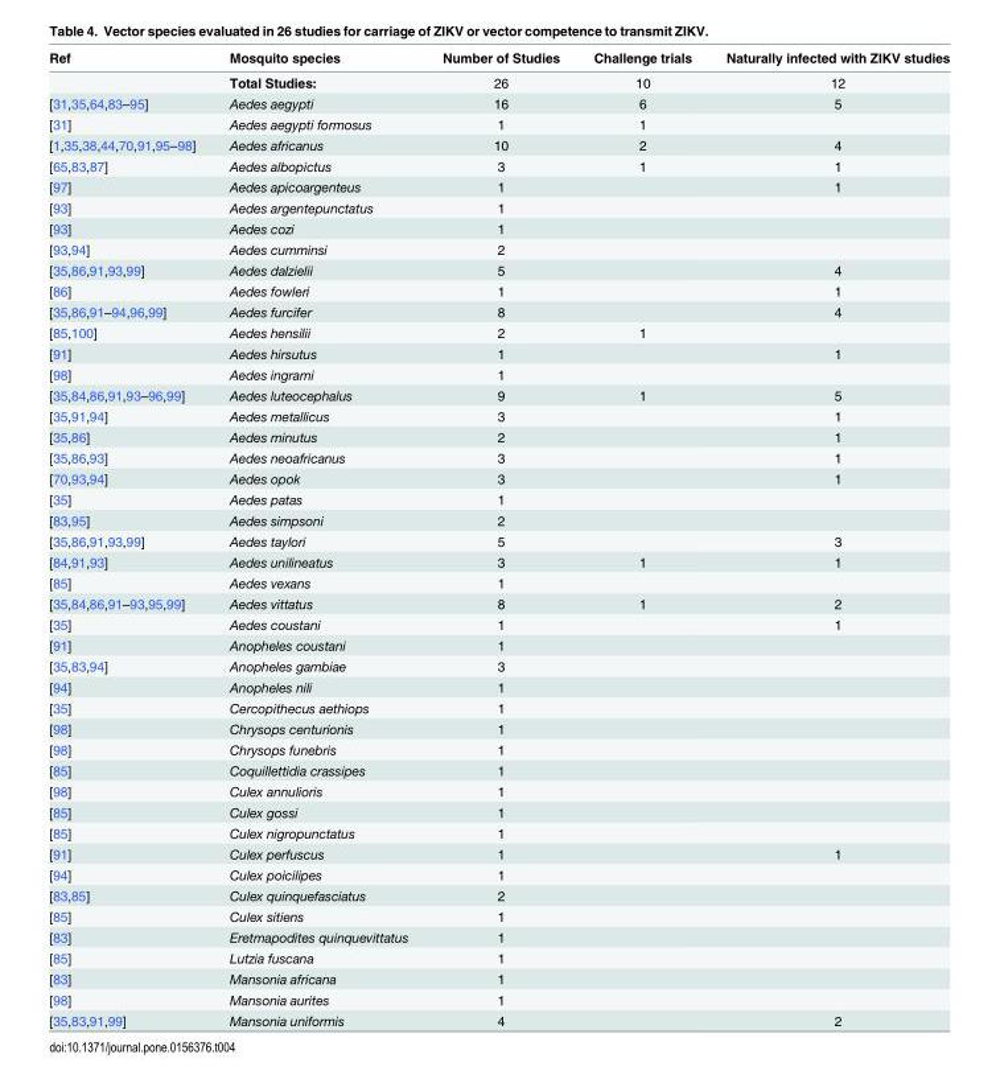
<table><thead><tr><td>Ref</td><td>Mosquito species</td><td>Number of Studies</td><td>Challenge trials</td><td>Naturally infected with ZIKV studies</td></tr></thead><tbody><tr><td></td><td>Total Studies:</td><td>26</td><td>10</td><td>12</td></tr><tr><td>[31,35,64,83–95]</td><td>Aedes aegypti</td><td>16</td><td>6</td><td>5</td></tr><tr><td>[31]</td><td>Aedes aegypti formosus</td><td>1</td><td>1</td><td></td></tr><tr><td>[1,35,38,44,70,91,95–98]</td><td>Aedes africanus</td><td>10</td><td>2</td><td>4</td></tr><tr><td>[65,83,87]</td><td>Aedes albopictus</td><td>3</td><td>1</td><td>1</td></tr><tr><td>[97]</td><td>Aedes apicoargenteus</td><td>1</td><td></td><td>1</td></tr><tr><td>[93]</td><td>Aedes argentepunctatus</td><td>1</td><td></td><td></td></tr><tr><td>[93]</td><td>Aedes cozi</td><td>1</td><td></td><td></td></tr><tr><td>[93,94]</td><td>Aedes cumminsi</td><td>2</td><td></td><td></td></tr><tr><td>[35,86,91,93,99]</td><td>Aedes dalzielii</td><td>5</td><td></td><td>4</td></tr><tr><td>[86]</td><td>Aedes fowleri</td><td>1</td><td></td><td>1</td></tr><tr><td>[35,86,91–94,96,99]</td><td>Aedes furcifer</td><td>8</td><td></td><td>4</td></tr><tr><td>[85,100]</td><td>Aedes hensilii</td><td>2</td><td>1</td><td></td></tr><tr><td>[91]</td><td>Aedes hirsutus</td><td>1</td><td></td><td>1</td></tr><tr><td>[98]</td><td>Aedes ingrami</td><td>1</td><td></td><td></td></tr><tr><td>[35,84,86,91,93–96,99]</td><td>Aedes luteocephalus</td><td>9</td><td>1</td><td>5</td></tr><tr><td>[35,91,94]</td><td>Aedes metallicus</td><td>3</td><td></td><td>1</td></tr><tr><td>[35,86]</td><td>Aedes minutus</td><td>2</td><td></td><td>1</td></tr><tr><td>[35,86,93]</td><td>Aedes neoafricanus</td><td>3</td><td></td><td>1</td></tr><tr><td>[70,93,94]</td><td>Aedes opok</td><td>3</td><td></td><td>1</td></tr><tr><td>[35]</td><td>Aedes patas</td><td>1</td><td></td><td></td></tr><tr><td>[83,95]</td><td>Aedes simpsoni</td><td>2</td><td></td><td></td></tr><tr><td>[35,86,91,93,99]</td><td>Aedes taylori</td><td>5</td><td></td><td>3</td></tr><tr><td>[84,91,93]</td><td>Aedes unilineatus</td><td>3</td><td>1</td><td>1</td></tr><tr><td>[85]</td><td>Aedes vexans</td><td>1</td><td></td><td></td></tr><tr><td>[35,84,86,91–93,95,99]</td><td>Aedes vittatus</td><td>8</td><td>1</td><td>2</td></tr><tr><td>[35]</td><td>Aedes coustani</td><td>1</td><td></td><td>1</td></tr><tr><td>[91]</td><td>Anopheles coustani</td><td>1</td><td></td><td></td></tr><tr><td>[35,83,94]</td><td>Anopheles gambiae</td><td>3</td><td></td><td></td></tr><tr><td>[94]</td><td>Anopheles nili</td><td>1</td><td></td><td></td></tr><tr><td>[35]</td><td>Cercopithecus aethiops</td><td>1</td><td></td><td></td></tr><tr><td>[98]</td><td>Chrysops centurionis</td><td>1</td><td></td><td></td></tr><tr><td>[98]</td><td>Chrysops funebris</td><td>1</td><td></td><td></td></tr><tr><td>[85]</td><td>Coquillettidia crassipes</td><td>1</td><td></td><td></td></tr><tr><td>[98]</td><td>Culex annulioris</td><td>1</td><td></td><td></td></tr><tr><td>[85]</td><td>Culex gossi</td><td>1</td><td></td><td></td></tr><tr><td>[85]</td><td>Culex nigropunctatus</td><td>1</td><td></td><td></td></tr><tr><td>[91]</td><td>Culex perfuscus</td><td>1</td><td></td><td>1</td></tr><tr><td>[94]</td><td>Culex poicilipes</td><td>1</td><td></td><td></td></tr><tr><td>[83,85]</td><td>Culex quinquefasciatus</td><td>2</td><td></td><td></td></tr><tr><td>[85]</td><td>Culex sitiens</td><td>1</td><td></td><td></td></tr><tr><td>[83]</td><td>Eretmapodites quinquevittatus</td><td>1</td><td></td><td></td></tr><tr><td>[85]</td><td>Lutzia fuscana</td><td>1</td><td></td><td></td></tr><tr><td>[83]</td><td>Mansonia africana</td><td>1</td><td></td><td></td></tr><tr><td>[98]</td><td>Mansonia aurites</td><td>1</td><td></td><td></td></tr><tr><td>[35,83,91,99]</td><td>Mansonia uniformis</td><td>4</td><td></td><td>2</td></tr></tbody></table>